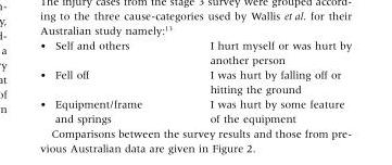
<table><tbody><tr><td>• Self and others</td><td>I hurt myself or was hurt by another person</td></tr><tr><td>• Fell off</td><td>I was hurt by falling off or hitting the ground</td></tr><tr><td>• Equipment/frame and springs</td><td>I was hurt by some feature of the equipment</td></tr></tbody></table>